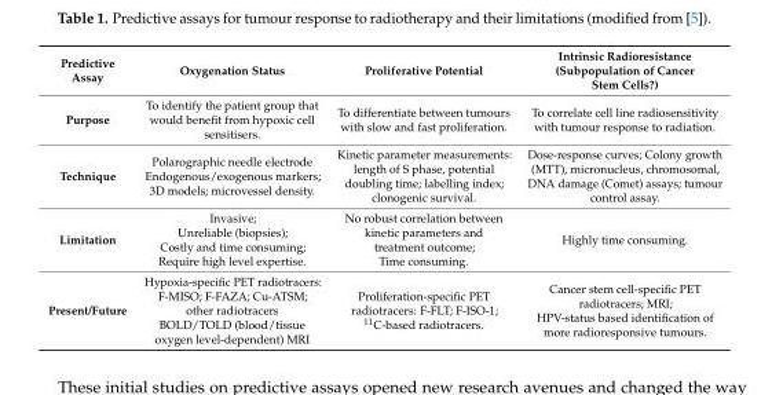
<table><thead><tr><td>Predictive Assay</td><td>Oxygenation Status</td><td>Proliferative Potential</td><td>Intrinsic Radioresistance (Subpopulation of Cancer Stem Cells?)</td></tr></thead><tbody><tr><td>Purpose</td><td>To identify the patient group that would benefit from hypoxic cell sensitisers.</td><td>To differentiate between tumours with slow and fast proliferation.</td><td>To correlate cell line radiosensitivity with tumour response to radiation.</td></tr><tr><td>Technique</td><td>Polarographic needle electrode Endogenous/exogenous markers; 3D models; microvessel density.</td><td>Kinetic parameter measurements: length of S phase, potential doubling time; labelling index; clonogenic survival.</td><td>Dose-response curves; Colony growth (MTT), micronucleus, chromosomal, DNA damage (Comet) assays; tumour control assay.</td></tr><tr><td>Limitation</td><td>Invasive; Unreliable (biopsies); Costly and time consuming; Require high level expertise.</td><td>No robust correlation between kinetic parameters and treatment outcome; Time consuming.</td><td>Highly time consuming.</td></tr><tr><td>Present/Future</td><td>Hypoxia-specific PET radiotracers: F-MISO; F-FAZA; Cu-ATSM; other radiotracers BOLD/TOLD (blood/tissue oxygen level-dependent) MRI</td><td>Proliferation-specific PET radiotracers: F-FLT; F-ISO-1; <sup>11</sup>C-based radiotracers.</td><td>Cancer stem cell-specific PET radiotracers; MRI; HPV-status based identification of more radioresponsive tumours.</td></tr></tbody></table>